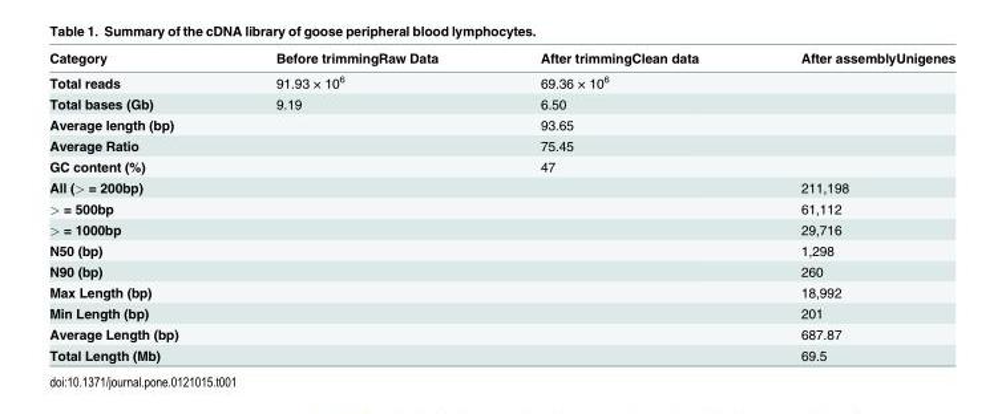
<table><thead><tr><td>Category</td><td>Before trimmingRaw Data</td><td>After trimmingClean data</td><td>After assemblyUnigenes</td></tr></thead><tbody><tr><td>Total reads</td><td>91.93 × 10<sup>6</sup></td><td>69.36 × 10<sup>6</sup></td><td></td></tr><tr><td>Total bases (Gb)</td><td>9.19</td><td>6.50</td><td></td></tr><tr><td>Average length (bp)</td><td></td><td>93.65</td><td></td></tr><tr><td>Average Ratio</td><td></td><td>75.45</td><td></td></tr><tr><td>GC content (%)</td><td></td><td>47</td><td></td></tr><tr><td colspan="3">All (&gt; = 200bp)</td><td>211,198</td></tr><tr><td colspan="3">&gt; = 500bp</td><td>61,112</td></tr><tr><td colspan="3">&gt; = 1000bp</td><td>29,716</td></tr><tr><td colspan="3">N50 (bp)</td><td>1,298</td></tr><tr><td colspan="3">N90 (bp)</td><td>260</td></tr><tr><td colspan="3">Max Length (bp)</td><td>18,992</td></tr><tr><td colspan="3">Min Length (bp)</td><td>201</td></tr><tr><td colspan="3">Average Length (bp)</td><td>687.87</td></tr><tr><td colspan="3">Total Length (Mb)</td><td>69.5</td></tr></tbody></table>